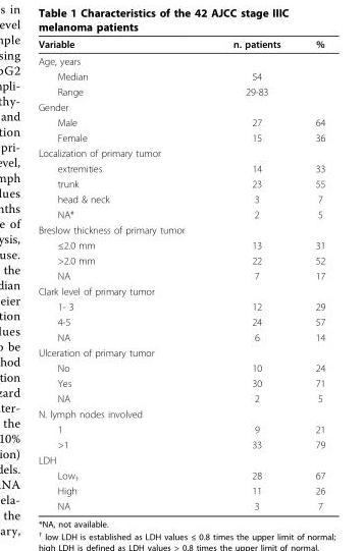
<table><thead><tr><td>Variable</td><td>n. patients</td><td>%</td></tr></thead><tbody><tr><td colspan="3">Age, years</td></tr><tr><td>Median</td><td>54</td><td></td></tr><tr><td>Range</td><td>29-83</td><td></td></tr><tr><td colspan="3">Gender</td></tr><tr><td>Male</td><td>27</td><td>64</td></tr><tr><td>Female</td><td>15</td><td>36</td></tr><tr><td colspan="3">Localization of primary tumor</td></tr><tr><td>extremities</td><td>14</td><td>33</td></tr><tr><td>trunk</td><td>23</td><td>55</td></tr><tr><td>head &amp; neck</td><td>3</td><td>7</td></tr><tr><td>NA*</td><td>2</td><td>5</td></tr><tr><td colspan="3">Breslow thickness of primary tumor</td></tr><tr><td>≤2.0 mm</td><td>13</td><td>31</td></tr><tr><td>&gt;2.0 mm</td><td>22</td><td>52</td></tr><tr><td>NA</td><td>7</td><td>17</td></tr><tr><td colspan="3">Clark level of primary tumor</td></tr><tr><td>1- 3</td><td>12</td><td>29</td></tr><tr><td>4-5</td><td>24</td><td>57</td></tr><tr><td>NA</td><td>6</td><td>14</td></tr><tr><td colspan="3">Ulceration of primary tumor</td></tr><tr><td>No</td><td>10</td><td>24</td></tr><tr><td>Yes</td><td>30</td><td>71</td></tr><tr><td>NA</td><td>2</td><td>5</td></tr><tr><td colspan="3">N. lymph nodes involved</td></tr><tr><td>1</td><td>9</td><td>21</td></tr><tr><td>&gt;1</td><td>33</td><td>79</td></tr><tr><td colspan="3">LDH</td></tr><tr><td>Low<sub>†</sub></td><td>28</td><td>67</td></tr><tr><td>High</td><td>11</td><td>26</td></tr><tr><td>NA</td><td>3</td><td>7</td></tr></tbody></table>